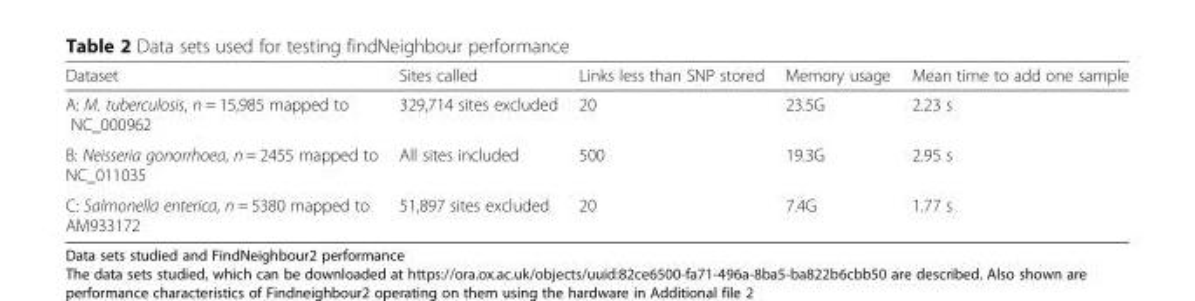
<table><thead><tr><td>Dataset</td><td>Sites called</td><td>Links less than SNP stored</td><td>Memory usage</td><td>Mean time to add one sample</td></tr></thead><tbody><tr><td>A: M. tuberculosis, n = 15,985 mapped to NC_000962</td><td>329,714 sites excluded</td><td>20</td><td>23.5G</td><td>2.23 s</td></tr><tr><td>B: Neisseria gonorrhoea, n = 2455 mapped to NC_011035</td><td>All sites included</td><td>500</td><td>19.3G</td><td>2.95 s</td></tr><tr><td>C: Salmonella enterica, n = 5380 mapped to AM933172</td><td>51,897 sites excluded</td><td>20</td><td>7.4G</td><td>1.77 s</td></tr></tbody></table>